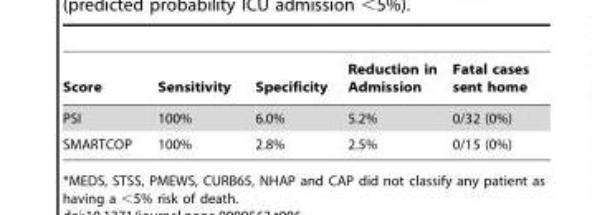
<table><thead><tr><td>Score</td><td>Sensitivity</td><td>Specificity</td><td>Reduction in Admission</td><td>Fatal cases sent home</td></tr></thead><tbody><tr><td>PSI</td><td>100%</td><td>6.0%</td><td>5.2%</td><td>0/32 (0%)</td></tr><tr><td>SMARTCOP</td><td>100%</td><td>2.8%</td><td>2.5%</td><td>0/15 (0%)</td></tr></tbody></table>